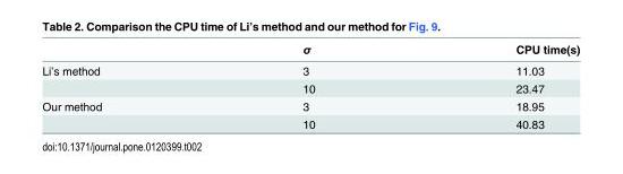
<table><thead><tr><td></td><td>σ</td><td>CPU time(s)</td></tr></thead><tbody><tr><td rowspan="2">Li’s method</td><td>3</td><td>11.03</td></tr><tr><td>10</td><td>23.47</td></tr><tr><td rowspan="2">Our method</td><td>3</td><td>18.95</td></tr><tr><td>10</td><td>40.83</td></tr></tbody></table>